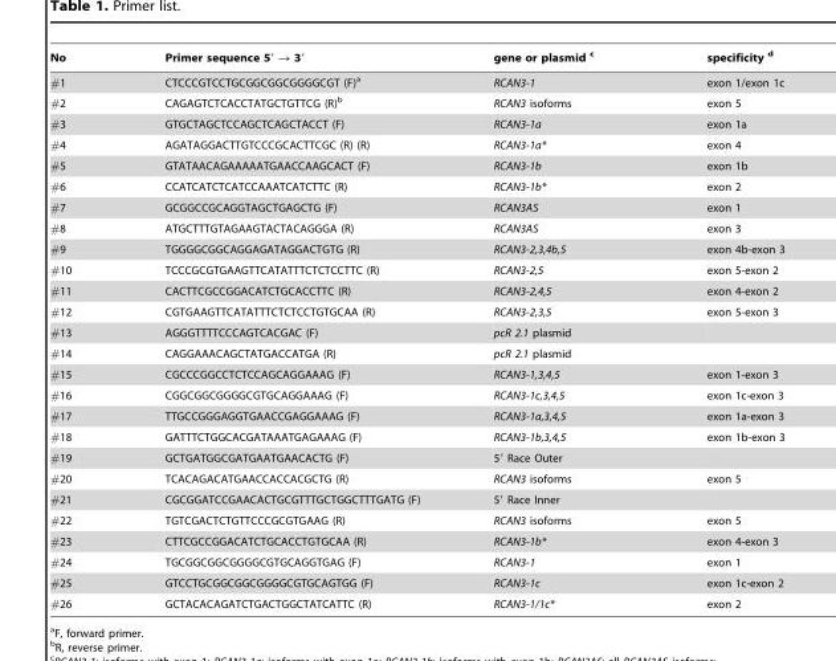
<table><thead><tr><td>No</td><td>Primer sequence 5′ → 3′</td><td>gene or plasmid c</td><td>specificity d</td></tr></thead><tbody><tr><td>#1</td><td>CTCCCGTCCTGCGGCGGCGGGGCGT (F)<sup>a</sup></td><td>RCAN3-1</td><td>exon 1/exon 1c</td></tr><tr><td>#2</td><td>CAGAGTCTCACCTATGCTGTTCG (R)<sup>b</sup></td><td>RCAN3 isoforms</td><td>exon 5</td></tr><tr><td>#3</td><td>GTGCTAGCTCCAGCTCAGCTACCT (F)</td><td>RCAN3-1a</td><td>exon 1a</td></tr><tr><td>#4</td><td>AGATAGGACTTGTCCCGCACTTCGC (R) (R)</td><td>RCAN3-1a*</td><td>exon 4</td></tr><tr><td>#5</td><td>GTATAACAGAAAAATGAACCAAGCACT (F)</td><td>RCAN3-1b</td><td>exon 1b</td></tr><tr><td>#6</td><td>CCATCATCTCATCCAAATCATCTTC (R)</td><td>RCAN3-1b*</td><td>exon 2</td></tr><tr><td>#7</td><td>GCGGCCGCAGGTAGCTGAGCTG (F)</td><td>RCAN3AS</td><td>exon 1</td></tr><tr><td>#8</td><td>ATGCTTTGTAGAAGTACTACAGGGA (R)</td><td>RCAN3AS</td><td>exon 3</td></tr><tr><td>#9</td><td>TGGGGCGGCAGGAGATAGGACTGTG (R)</td><td>RCAN3-2,3,4b,5</td><td>exon 4b-exon 3</td></tr><tr><td>#10</td><td>TCCCGCGTGAAGTTCATATTTCTCTCCTTC (R)</td><td>RCAN3-2,5</td><td>exon 5-exon 2</td></tr><tr><td>#11</td><td>CACTTCGCCGGACATCTGCACCTTC (R)</td><td>RCAN3-2,4,5</td><td>exon 4-exon 2</td></tr><tr><td>#12</td><td>CGTGAAGTTCATATTTCTCTCCTGTGCAA (R)</td><td>RCAN3-2,3,5</td><td>exon 5-exon 3</td></tr><tr><td>#13</td><td>AGGGTTTTCCCAGTCACGAC (F)</td><td>pcR 2.1 plasmid</td><td></td></tr><tr><td>#14</td><td>CAGGAAACAGCTATGACCATGA (R)</td><td>pcR 2.1 plasmid</td><td></td></tr><tr><td>#15</td><td>CGCCCGGCCTCTCCAGCAGGAAAG (F)</td><td>RCAN3-1,3,4,5</td><td>exon 1-exon 3</td></tr><tr><td>#16</td><td>CGGCGGCGGGGCGTGCAGGAAAG (F)</td><td>RCAN3-1c,3,4,5</td><td>exon 1c-exon 3</td></tr><tr><td>#17</td><td>TTGCCGGGAGGTGAACCGAGGAAAG (F)</td><td>RCAN3-1a,3,4,5</td><td>exon 1a-exon 3</td></tr><tr><td>#18</td><td>GATTTCTGGCACGATAAATGAGAAAG (F)</td><td>RCAN3-1b,3,4,5</td><td>exon 1b-exon 3</td></tr><tr><td>#19</td><td>GCTGATGGCGATGAATGAACACTG (F)</td><td>5′ Race Outer</td><td></td></tr><tr><td>#20</td><td>TCACAGACATGAACCACCACGCTG (R)</td><td>RCAN3 isoforms</td><td>exon 5</td></tr><tr><td>#21</td><td>CGCGGATCCGAACACTGCGTTTGCTGGCTTTGATG (F)</td><td>5′ Race Inner</td><td></td></tr><tr><td>#22</td><td>TGTCGACTCTGTTCCCGCGTGAAG (R)</td><td>RCAN3 isoforms</td><td>exon 5</td></tr><tr><td>#23</td><td>CTTCGCCGGACATCTGCACCTGTGCAA (R)</td><td>RCAN3-1b*</td><td>exon 4-exon 3</td></tr><tr><td>#24</td><td>TGCGGCGGCGGGGCGTGCAGGTGAG (F)</td><td>RCAN3-1</td><td>exon 1</td></tr><tr><td>#25</td><td>GTCCTGCGGCGGCGGGGCGTGCAGTGG (F)</td><td>RCAN3-1c</td><td>exon 1c-exon 2</td></tr><tr><td>#26</td><td>GCTACACAGATCTGACTGGCTATCATTC (R)</td><td>RCAN3-1/1c*</td><td>exon 2</td></tr></tbody></table>